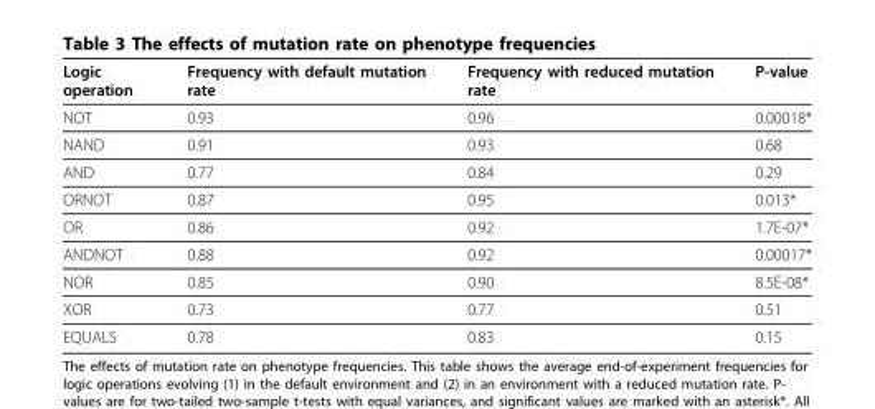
<table><thead><tr><td>Logic operation</td><td>Frequency with default mutation rate</td><td>Frequency with reduced mutation rate</td><td>P-value</td></tr></thead><tbody><tr><td>NOT</td><td>0.93</td><td>0.96</td><td>0.00018*</td></tr><tr><td>NAND</td><td>0.91</td><td>0.93</td><td>0.68</td></tr><tr><td>AND</td><td>0.77</td><td>0.84</td><td>0.29</td></tr><tr><td>ORNOT</td><td>0.87</td><td>0.95</td><td>0.013*</td></tr><tr><td>OR</td><td>0.86</td><td>0.92</td><td>1.7E-07*</td></tr><tr><td>ANDNOT</td><td>0.88</td><td>0.92</td><td>0.00017*</td></tr><tr><td>NOR</td><td>0.85</td><td>0.90</td><td>8.5E-08*</td></tr><tr><td>XOR</td><td>0.73</td><td>0.77</td><td>0.51</td></tr><tr><td>EQUALS</td><td>0.78</td><td>0.83</td><td>0.15</td></tr></tbody></table>